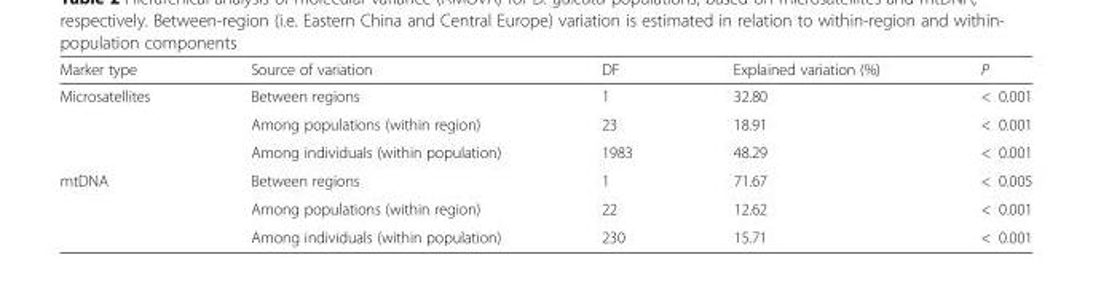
<table><thead><tr><td>Marker type</td><td>Source of variation</td><td>DF</td><td>Explained variation (%)</td><td>P</td></tr></thead><tbody><tr><td rowspan="3">Microsatellites</td><td>Between regions</td><td>1</td><td>32.80</td><td>&lt; 0.001</td></tr><tr><td>Among populations (within region)</td><td>23</td><td>18.91</td><td>&lt; 0.001</td></tr><tr><td>Among individuals (within population)</td><td>1983</td><td>48.29</td><td>&lt; 0.001</td></tr><tr><td rowspan="3">mtDNA</td><td>Between regions</td><td>1</td><td>71.67</td><td>&lt; 0.005</td></tr><tr><td>Among populations (within region)</td><td>22</td><td>12.62</td><td>&lt; 0.001</td></tr><tr><td>Among individuals (within population)</td><td>230</td><td>15.71</td><td>&lt; 0.001</td></tr></tbody></table>